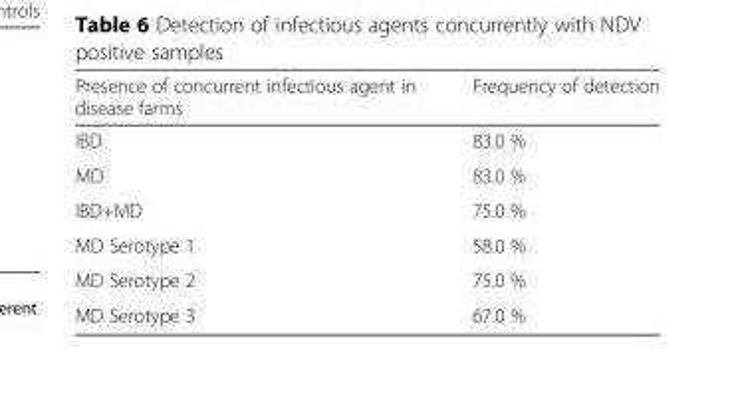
<table><thead><tr><td>Presence of concurrent infectious agent in disease farms</td><td>Frequency of detection</td></tr></thead><tbody><tr><td>IBD</td><td>83.0 %</td></tr><tr><td>MD</td><td>83.0 %</td></tr><tr><td>IBD+MD</td><td>75.0 %</td></tr><tr><td>MD Serotype 1</td><td>58.0 %</td></tr><tr><td>MD Serotype 2</td><td>75.0 %</td></tr><tr><td>MD Serotype 3</td><td>67.0 %</td></tr></tbody></table>